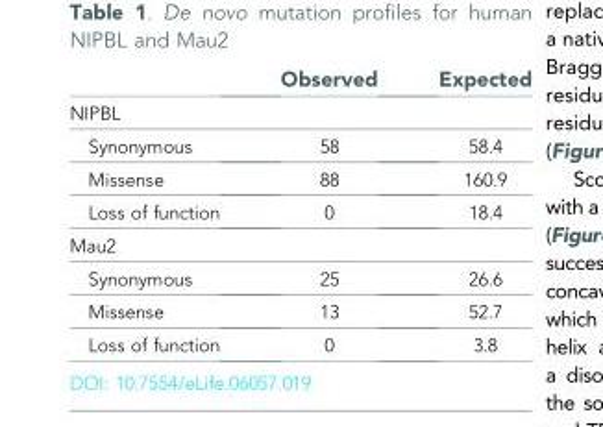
<table><thead><tr><td></td><td>Observed</td><td>Expected</td></tr></thead><tbody><tr><td colspan="3">NIPBL</td></tr><tr><td>Synonymous</td><td>58</td><td>58.4</td></tr><tr><td>Missense</td><td>88</td><td>160.9</td></tr><tr><td>Loss of function</td><td>0</td><td>18.4</td></tr><tr><td colspan="3">Mau2</td></tr><tr><td>Synonymous</td><td>25</td><td>26.6</td></tr><tr><td>Missense</td><td>13</td><td>52.7</td></tr><tr><td>Loss of function</td><td>0</td><td>3.8</td></tr></tbody></table>